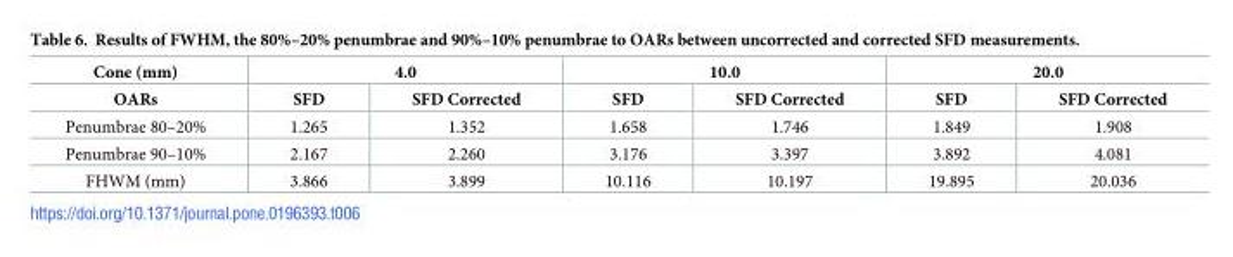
<table><thead><tr><td rowspan="2">Cone (mm) OARs</td><td colspan="2">4.0</td><td colspan="2">10.0</td><td colspan="2">20.0</td></tr><tr><td>SFD</td><td>SFD Corrected</td><td>SFD</td><td>SFD Corrected</td><td>SFD</td><td>SFD Corrected</td></tr></thead><tbody><tr><td>Penumbrae 80–20%</td><td>1.265</td><td>1.352</td><td>1.658</td><td>1.746</td><td>1.849</td><td>1.908</td></tr><tr><td>Penumbrae 90–10%</td><td>2.167</td><td>2.260</td><td>3.176</td><td>3.397</td><td>3.892</td><td>4.081</td></tr><tr><td>FHWM (mm)</td><td>3.866</td><td>3.899</td><td>10.116</td><td>10.197</td><td>19.895</td><td>20.036</td></tr></tbody></table>